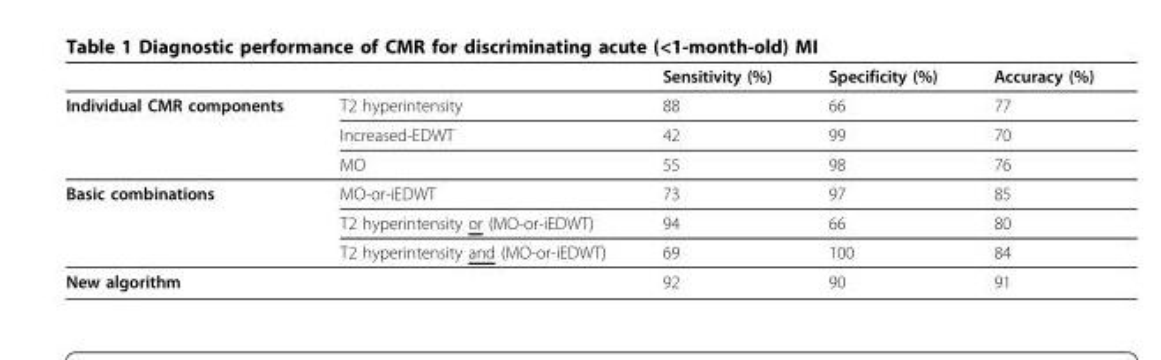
<table><thead><tr><td></td><td></td><td>Sensitivity (%)</td><td>Specificity (%)</td><td>Accuracy (%)</td></tr></thead><tbody><tr><td rowspan="3">Individual CMR components</td><td>T2 hyperintensity</td><td>88</td><td>66</td><td>77</td></tr><tr><td>Increased-EDWT</td><td>42</td><td>99</td><td>70</td></tr><tr><td>MO</td><td>55</td><td>98</td><td>76</td></tr><tr><td rowspan="3">Basic combinations</td><td>MO-or-iEDWT</td><td>73</td><td>97</td><td>85</td></tr><tr><td>T2 hyperintensity or (MO-or-iEDWT)</td><td>94</td><td>66</td><td>80</td></tr><tr><td>T2 hyperintensity and (MO-or-iEDWT)</td><td>69</td><td>100</td><td>84</td></tr><tr><td>New algorithm</td><td></td><td>92</td><td>90</td><td>91</td></tr></tbody></table>